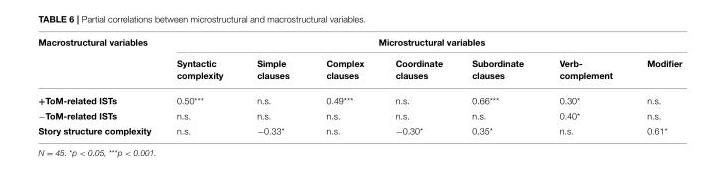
<table><thead><tr><td rowspan="2">Macrostructural variables</td><td colspan="7">Microstructural variables</td></tr><tr><td>Syntactic complexity</td><td>Simple clauses</td><td>Complex clauses</td><td>Coordinate clauses</td><td>Subordinate clauses</td><td>Verb- complement</td><td>Modifier</td></tr></thead><tbody><tr><td>+ToM-related ISTs</td><td>0.50***</td><td>n.s.</td><td>0.49***</td><td>n.s.</td><td>0.66***</td><td>0.30*</td><td>n.s.</td></tr><tr><td>−ToM-related ISTs</td><td>n.s.</td><td>n.s.</td><td>n.s.</td><td>n.s.</td><td>n.s.</td><td>0.40*</td><td>n.s.</td></tr><tr><td>Story structure complexity</td><td>n.s.</td><td>−0.33*</td><td>n.s.</td><td>−0.30*</td><td>0.35*</td><td>n.s.</td><td>0.61*</td></tr></tbody></table>